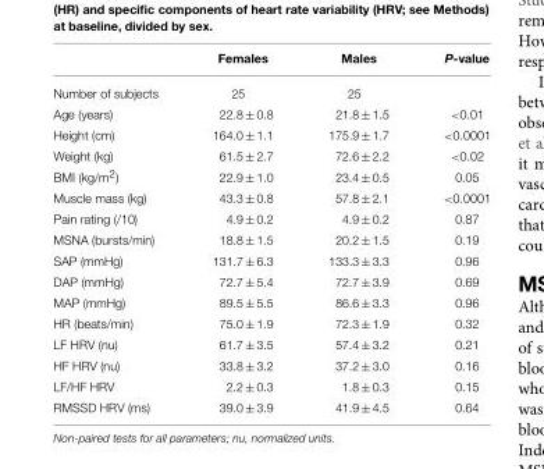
<table><thead><tr><td></td><td>Females</td><td>Males</td><td>P-value</td></tr></thead><tbody><tr><td>Number of subjects</td><td>25</td><td>25</td><td></td></tr><tr><td>Age (years)</td><td>22.8 ± 0.8</td><td>21.8 ± 1.5</td><td>&lt;0.01</td></tr><tr><td>Height (cm)</td><td>164.0 ± 1.1</td><td>175.9 ± 1.7</td><td>&lt;0.0001</td></tr><tr><td>Weight (kg)</td><td>61.5 ± 2.7</td><td>72.6 ± 2.2</td><td>&lt;0.02</td></tr><tr><td>BMI (kg/m<sup>2</sup>)</td><td>22.9 ± 1.0</td><td>23.4 ± 0.5</td><td>0.05</td></tr><tr><td>Muscle mass (kg)</td><td>43.3 ± 0.8</td><td>57.8 ± 2.1</td><td>&lt;0.0001</td></tr><tr><td>Pain rating (/10)</td><td>4.9 ± 0.2</td><td>4.9 ± 0.2</td><td>0.87</td></tr><tr><td>MSNA (bursts/min)</td><td>18.8 ± 1.5</td><td>20.2 ± 1.5</td><td>0.19</td></tr><tr><td>SAP (mmHg)</td><td>131.7 ± 6.3</td><td>133.3 ± 3.3</td><td>0.96</td></tr><tr><td>DAP (mmHg)</td><td>72.7 ± 5.4</td><td>72.7 ± 3.9</td><td>0.69</td></tr><tr><td>MAP (mmHg)</td><td>89.5 ± 5.5</td><td>86.6 ± 3.3</td><td>0.96</td></tr><tr><td>HR (beats/min)</td><td>75.0 ± 1.9</td><td>72.3 ± 1.9</td><td>0.32</td></tr><tr><td>LF HRV (nu)</td><td>61.7 ± 3.5</td><td>57.4 ± 3.2</td><td>0.21</td></tr><tr><td>HF HRV (nu)</td><td>33.8 ± 3.2</td><td>37.2 ± 3.0</td><td>0.16</td></tr><tr><td>LF/HF HRV</td><td>2.2 ± 0.3</td><td>1.8 ± 0.3</td><td>0.15</td></tr><tr><td>RMSSD HRV (ms)</td><td>39.0 ± 3.9</td><td>41.9 ± 4.5</td><td>0.64</td></tr></tbody></table>